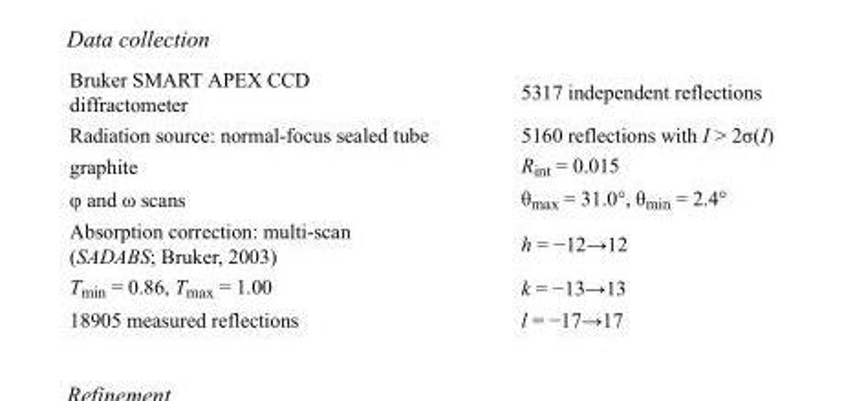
<table><tbody><tr><td>Bruker SMART APEX CCD diffractometer</td><td>5317 independent reflections</td></tr><tr><td>Radiation source: normal-focus sealed tube</td><td>5160 reflections with I &gt; 2σ(I)</td></tr><tr><td>graphite</td><td>R<sub>int</sub> = 0.015</td></tr><tr><td>φ and ω scans</td><td>θ<sub>max</sub> = 31.0°, θ<sub>min</sub> = 2.4°</td></tr><tr><td>Absorption correction: multi-scan (SADABS; Bruker, 2003)</td><td>h = −12→12</td></tr><tr><td>T<sub>min</sub> = 0.86, T<sub>max</sub> = 1.00</td><td>k = −13→13</td></tr><tr><td>18905 measured reflections</td><td>l = −17→17</td></tr></tbody></table>